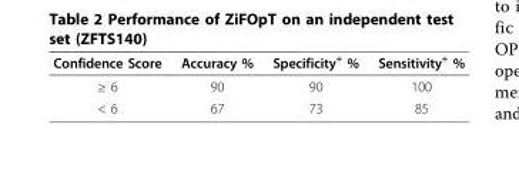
<table><thead><tr><td>Confidence Score</td><td>Accuracy %</td><td>Specificity<sup>+</sup> %</td><td>Sensitivity<sup>+</sup> %</td></tr></thead><tbody><tr><td>≥ 6</td><td>90</td><td>90</td><td>100</td></tr><tr><td>&lt; 6</td><td>67</td><td>73</td><td>85</td></tr></tbody></table>